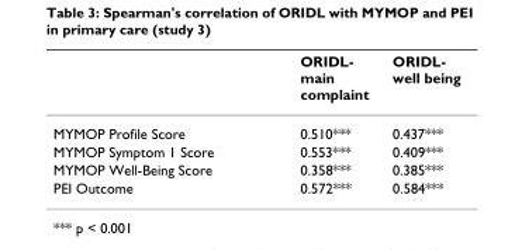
<table><thead><tr><td></td><td>ORIDL- main complaint</td><td>ORIDL- well being</td></tr></thead><tbody><tr><td>MYMOP Profile Score</td><td>0.510***</td><td>0.437***</td></tr><tr><td>MYMOP Symptom 1 Score</td><td>0.553***</td><td>0.409***</td></tr><tr><td>MYMOP Well-Being Score</td><td>0.358***</td><td>0.385***</td></tr><tr><td>PEI Outcome</td><td>0.572***</td><td>0.584***</td></tr></tbody></table>